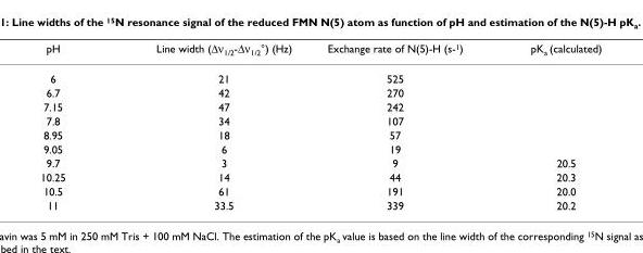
<table><thead><tr><td>pH</td><td>Line width (∆ν1/2-∆ν1/2°) (Hz)</td><td>Exchange rate of N(5)-H (s-<sup>1</sup>)</td><td>pK<sub>a</sub> (calculated)</td></tr></thead><tbody><tr><td>6</td><td>21</td><td>525</td><td></td></tr><tr><td>6.7</td><td>42</td><td>270</td><td></td></tr><tr><td>7.15</td><td>47</td><td>242</td><td></td></tr><tr><td>7.8</td><td>34</td><td>107</td><td></td></tr><tr><td>8.95</td><td>18</td><td>57</td><td></td></tr><tr><td>9.05</td><td>6</td><td>19</td><td></td></tr><tr><td>9.7</td><td>3</td><td>9</td><td>20.5</td></tr><tr><td>10.25</td><td>14</td><td>44</td><td>20.3</td></tr><tr><td>10.5</td><td>61</td><td>191</td><td>20.0</td></tr><tr><td>11</td><td>33.5</td><td>339</td><td>20.2</td></tr></tbody></table>